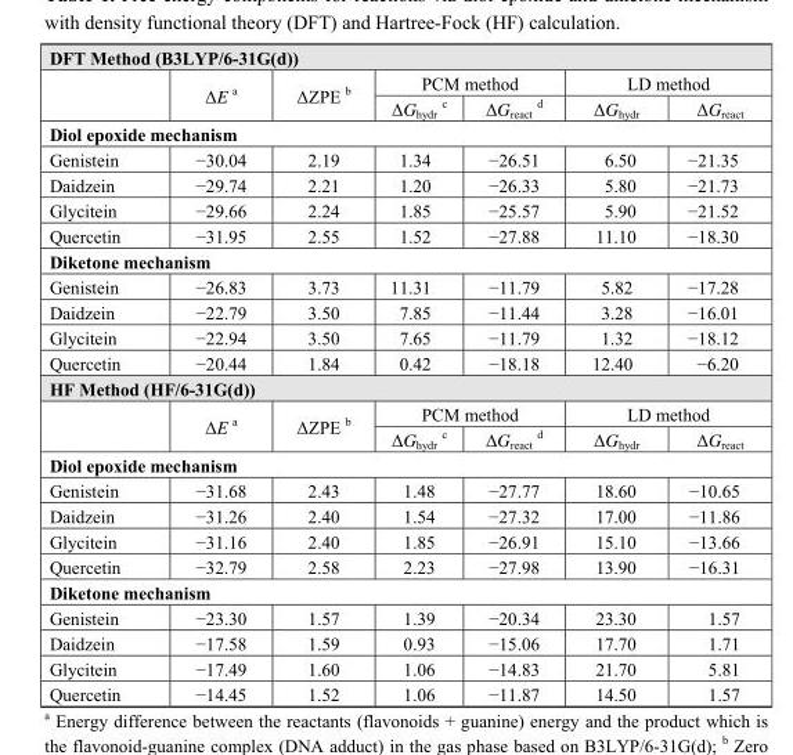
<table><thead><tr><td colspan="7">DFT Method (B3LYP/6-31G(d))</td></tr><tr><td rowspan="2"></td><td rowspan="2">ΔE <sup>a</sup></td><td rowspan="2">ΔZPE b</td><td colspan="2">PCM method</td><td colspan="2">LD method</td></tr><tr><td>ΔG<sub>hydr</sub> <sup>c</sup></td><td>ΔG<sub>react</sub> <sup>d</sup></td><td>ΔG<sub>hydr</sub></td><td>ΔG<sub>react</sub></td></tr></thead><tbody><tr><td colspan="7">Diol epoxide mechanism</td></tr><tr><td>Genistein</td><td>−30.04</td><td>2.19</td><td>1.34</td><td>−26.51</td><td>6.50</td><td>−21.35</td></tr><tr><td>Daidzein</td><td>−29.74</td><td>2.21</td><td>1.20</td><td>−26.33</td><td>5.80</td><td>−21.73</td></tr><tr><td>Glycitein</td><td>−29.66</td><td>2.24</td><td>1.85</td><td>−25.57</td><td>5.90</td><td>−21.52</td></tr><tr><td>Quercetin</td><td>−31.95</td><td>2.55</td><td>1.52</td><td>−27.88</td><td>11.10</td><td>−18.30</td></tr><tr><td colspan="7">Diketone mechanism</td></tr><tr><td>Genistein</td><td>−26.83</td><td>3.73</td><td>11.31</td><td>−11.79</td><td>5.82</td><td>−17.28</td></tr><tr><td>Daidzein</td><td>−22.79</td><td>3.50</td><td>7.85</td><td>−11.44</td><td>3.28</td><td>−16.01</td></tr><tr><td>Glycitein</td><td>−22.94</td><td>3.50</td><td>7.65</td><td>−11.79</td><td>1.32</td><td>−18.12</td></tr><tr><td>Quercetin</td><td>−20.44</td><td>1.84</td><td>0.42</td><td>−18.18</td><td>12.40</td><td>−6.20</td></tr><tr><td colspan="7">HF Method (HF/6-31G(d))</td></tr><tr><td rowspan="2"></td><td rowspan="2">ΔE <sup>a</sup></td><td rowspan="2">ΔZPE b</td><td colspan="2">PCM method</td><td colspan="2">LD method</td></tr><tr><td>ΔG<sub>hydr</sub> <sup>c</sup></td><td>ΔG<sub>react</sub> <sup>d</sup></td><td>ΔG<sub>hydr</sub></td><td>ΔG<sub>react</sub></td></tr><tr><td colspan="7">Diol epoxide mechanism</td></tr><tr><td>Genistein</td><td>−31.68</td><td>2.43</td><td>1.48</td><td>−27.77</td><td>18.60</td><td>−10.65</td></tr><tr><td>Daidzein</td><td>−31.26</td><td>2.40</td><td>1.54</td><td>−27.32</td><td>17.00</td><td>−11.86</td></tr><tr><td>Glycitein</td><td>−31.16</td><td>2.40</td><td>1.85</td><td>−26.91</td><td>15.10</td><td>−13.66</td></tr><tr><td>Quercetin</td><td>−32.79</td><td>2.58</td><td>2.23</td><td>−27.98</td><td>13.90</td><td>−16.31</td></tr><tr><td colspan="7">Diketone mechanism</td></tr><tr><td>Genistein</td><td>−23.30</td><td>1.57</td><td>1.39</td><td>−20.34</td><td>23.30</td><td>1.57</td></tr><tr><td>Daidzein</td><td>−17.58</td><td>1.59</td><td>0.93</td><td>−15.06</td><td>17.70</td><td>1.71</td></tr><tr><td>Glycitein</td><td>−17.49</td><td>1.60</td><td>1.06</td><td>−14.83</td><td>21.70</td><td>5.81</td></tr><tr><td>Quercetin</td><td>−14.45</td><td>1.52</td><td>1.06</td><td>−11.87</td><td>14.50</td><td>1.57</td></tr></tbody></table>